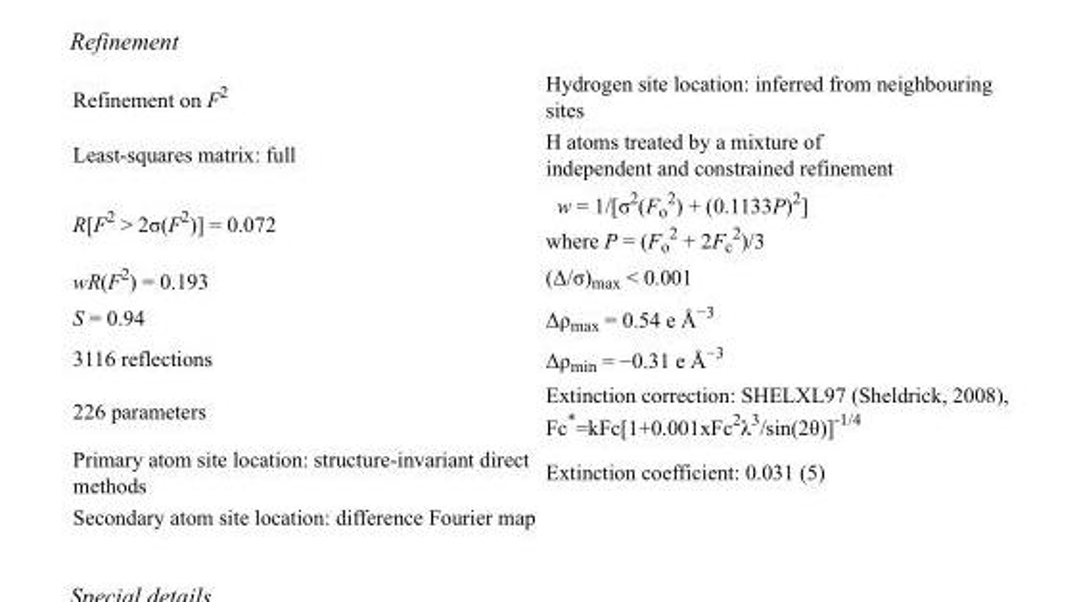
<table><tbody><tr><td>Refinement on F<sup>2</sup></td><td>Hydrogen site location: inferred from neighbouring sites</td></tr><tr><td>Least-squares matrix: full</td><td>H atoms treated by a mixture of independent and constrained refinement</td></tr><tr><td>R[F<sup>2</sup> &gt; 2σ(F<sup>2</sup>)] = 0.072</td><td>w = 1/[σ<sup>2</sup>(F<sub>o</sub> <sup>2</sup>) + (0.1133P)<sup>2</sup>] where P = (F<sub>o</sub> <sup>2</sup> + 2F<sub>c</sub> <sup>2</sup>)/3</td></tr><tr><td>wR(F<sup>2</sup>) = 0.193</td><td>(Δ/σ)<sub>max</sub> &lt; 0.001</td></tr><tr><td>S = 0.94</td><td>Δρ<sub>max</sub> = 0.54 e Å<sup>−3</sup></td></tr><tr><td>3116 reflections</td><td>Δρ<sub>min</sub> = −0.31 e Å<sup>−3</sup></td></tr><tr><td>226 parameters</td><td>Extinction correction: SHELXL97 (Sheldrick, 2008), Fc*=kFc[1+0.001xFc<sup>2</sup>λ<sup>3</sup>/sin(2θ)]<sup>-1/4</sup></td></tr><tr><td>Primary atom site location: structure-invariant direct methods</td><td>Extinction coefficient: 0.031 (5)</td></tr><tr><td>Secondary atom site location: difference Fourier map</td><td></td></tr></tbody></table>